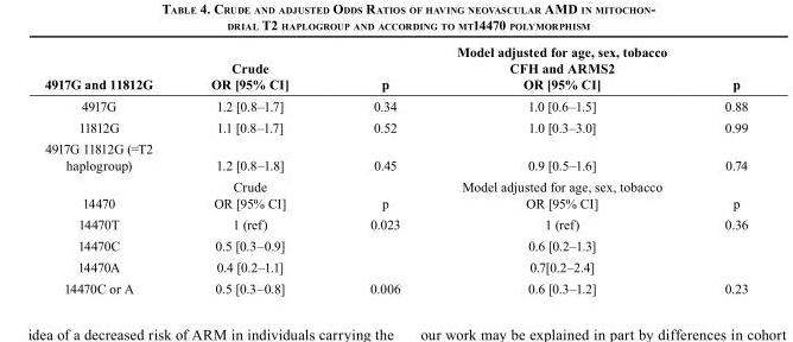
<table><thead><tr><td>4917G and 11812G</td><td>Crude OR [95% CI]</td><td>p</td><td>Model adjusted for age, sex, tobacco CFH and ARMS2 OR [95% CI]</td><td>p</td></tr></thead><tbody><tr><td>4917G</td><td>1.2 [0.8–1.7]</td><td>0.34</td><td>1.0 [0.6–1.5]</td><td>0.88</td></tr><tr><td>11812G</td><td>1.1 [0.8–1.7]</td><td>0.52</td><td>1.0 [0.3–3.0]</td><td>0.99</td></tr><tr><td>4917G 11812G (=T2 haplogroup)</td><td>1.2 [0.8–1.8]</td><td>0.45</td><td>0.9 [0.5–1.6]</td><td>0.74</td></tr><tr><td>14470</td><td>Crude OR [95% CI]</td><td>p</td><td>Model adjusted for age, sex, tobacco OR [95% CI]</td><td>p</td></tr><tr><td>14470T</td><td>1 (ref)</td><td>0.023</td><td>1 (ref)</td><td>0.36</td></tr><tr><td>14470C</td><td>0.5 [0.3–0.9]</td><td></td><td>0.6 [0.2–1.3]</td><td></td></tr><tr><td>14470A</td><td>0.4 [0.2–1.1]</td><td></td><td>0.7[0.2–2.4]</td><td></td></tr><tr><td>14470C or A</td><td>0.5 [0.3–0.8]</td><td>0.006</td><td>0.6 [0.3–1.2]</td><td>0.23</td></tr></tbody></table>